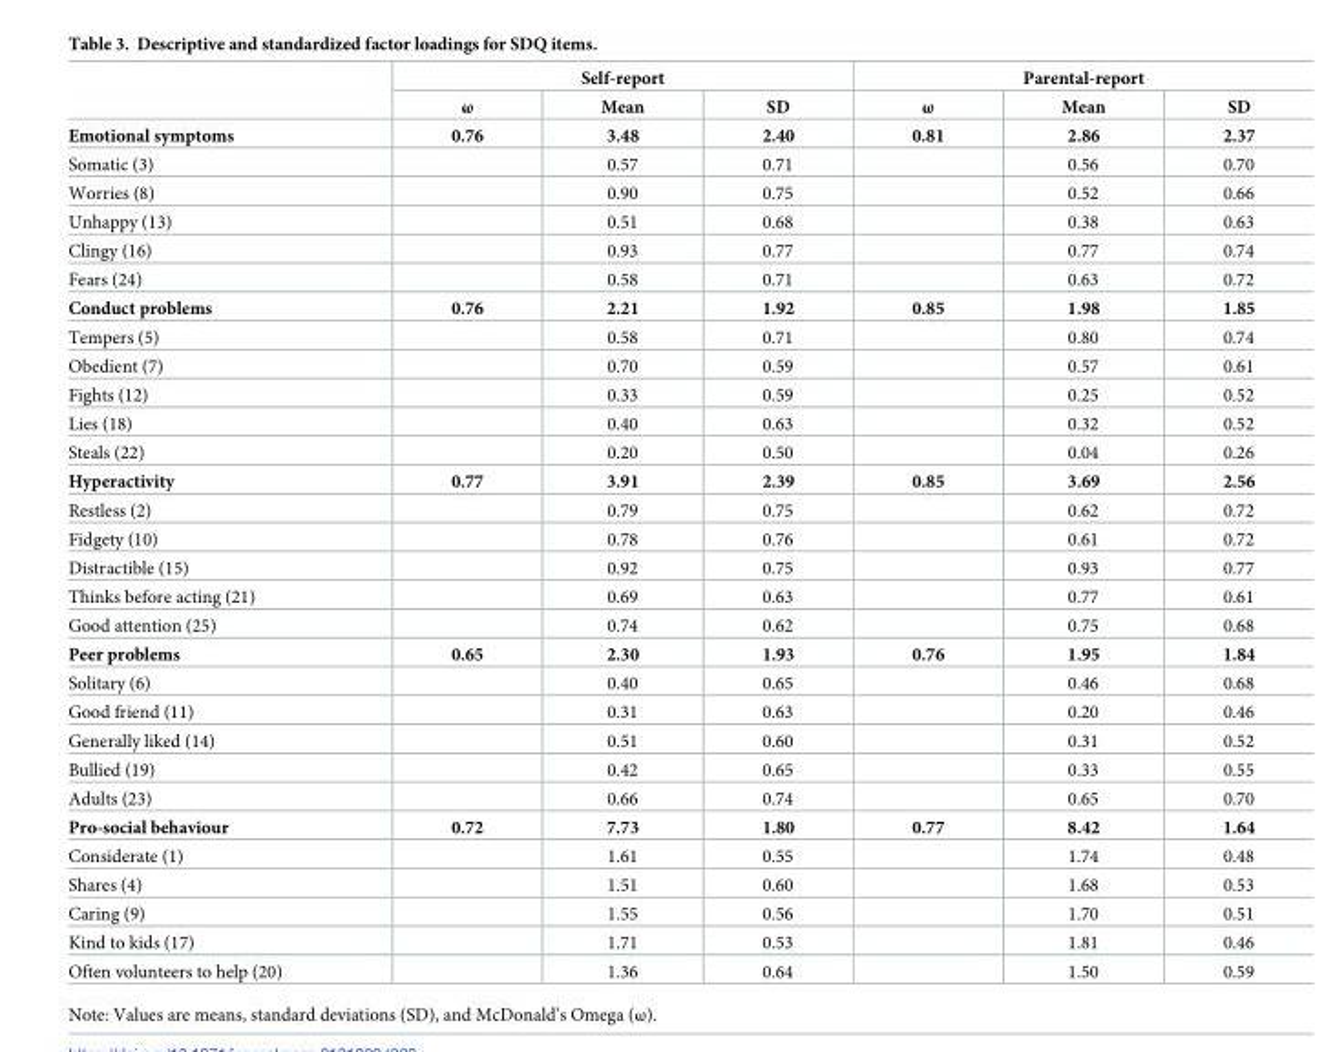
<table><thead><tr><td rowspan="2"></td><td colspan="3">Self-report</td><td colspan="3">Parental-report</td></tr><tr><td>ω</td><td>Mean</td><td>SD</td><td>ω</td><td>Mean</td><td>SD</td></tr></thead><tbody><tr><td>Emotional symptoms</td><td>0.76</td><td>3.48</td><td>2.40</td><td>0.81</td><td>2.86</td><td>2.37</td></tr><tr><td>Somatic (3)</td><td></td><td>0.57</td><td>0.71</td><td></td><td>0.56</td><td>0.70</td></tr><tr><td>Worries (8)</td><td></td><td>0.90</td><td>0.75</td><td></td><td>0.52</td><td>0.66</td></tr><tr><td>Unhappy (13)</td><td></td><td>0.51</td><td>0.68</td><td></td><td>0.38</td><td>0.63</td></tr><tr><td>Clingy (16)</td><td></td><td>0.93</td><td>0.77</td><td></td><td>0.77</td><td>0.74</td></tr><tr><td>Fears (24)</td><td></td><td>0.58</td><td>0.71</td><td></td><td>0.63</td><td>0.72</td></tr><tr><td>Conduct problems</td><td>0.76</td><td>2.21</td><td>1.92</td><td>0.85</td><td>1.98</td><td>1.85</td></tr><tr><td>Tempers (5)</td><td></td><td>0.58</td><td>0.71</td><td></td><td>0.80</td><td>0.74</td></tr><tr><td>Obedient (7)</td><td></td><td>0.70</td><td>0.59</td><td></td><td>0.57</td><td>0.61</td></tr><tr><td>Fights (12)</td><td></td><td>0.33</td><td>0.59</td><td></td><td>0.25</td><td>0.52</td></tr><tr><td>Lies (18)</td><td></td><td>0.40</td><td>0.63</td><td></td><td>0.32</td><td>0.52</td></tr><tr><td>Steals (22)</td><td></td><td>0.20</td><td>0.50</td><td></td><td>0.04</td><td>0.26</td></tr><tr><td>Hyperactivity</td><td>0.77</td><td>3.91</td><td>2.39</td><td>0.85</td><td>3.69</td><td>2.56</td></tr><tr><td>Restless (2)</td><td></td><td>0.79</td><td>0.75</td><td></td><td>0.62</td><td>0.72</td></tr><tr><td>Fidgety (10)</td><td></td><td>0.78</td><td>0.76</td><td></td><td>0.61</td><td>0.72</td></tr><tr><td>Distractible (15)</td><td></td><td>0.92</td><td>0.75</td><td></td><td>0.93</td><td>0.77</td></tr><tr><td>Thinks before acting (21)</td><td></td><td>0.69</td><td>0.63</td><td></td><td>0.77</td><td>0.61</td></tr><tr><td>Good attention (25)</td><td></td><td>0.74</td><td>0.62</td><td></td><td>0.75</td><td>0.68</td></tr><tr><td>Peer problems</td><td>0.65</td><td>2.30</td><td>1.93</td><td>0.76</td><td>1.95</td><td>1.84</td></tr><tr><td>Solitary (6)</td><td></td><td>0.40</td><td>0.65</td><td></td><td>0.46</td><td>0.68</td></tr><tr><td>Good friend (11)</td><td></td><td>0.31</td><td>0.63</td><td></td><td>0.20</td><td>0.46</td></tr><tr><td>Generally liked (14)</td><td></td><td>0.51</td><td>0.60</td><td></td><td>0.31</td><td>0.52</td></tr><tr><td>Bullied (19)</td><td></td><td>0.42</td><td>0.65</td><td></td><td>0.33</td><td>0.55</td></tr><tr><td>Adults (23)</td><td></td><td>0.66</td><td>0.74</td><td></td><td>0.65</td><td>0.70</td></tr><tr><td>Pro-social behaviour</td><td>0.72</td><td>7.73</td><td>1.80</td><td>0.77</td><td>8.42</td><td>1.64</td></tr><tr><td>Considerate (1)</td><td></td><td>1.61</td><td>0.55</td><td></td><td>1.74</td><td>0.48</td></tr><tr><td>Shares (4)</td><td></td><td>1.51</td><td>0.60</td><td></td><td>1.68</td><td>0.53</td></tr><tr><td>Caring (9)</td><td></td><td>1.55</td><td>0.56</td><td></td><td>1.70</td><td>0.51</td></tr><tr><td>Kind to kids (17)</td><td></td><td>1.71</td><td>0.53</td><td></td><td>1.81</td><td>0.46</td></tr><tr><td>Often volunteers to help (20)</td><td></td><td>1.36</td><td>0.64</td><td></td><td>1.50</td><td>0.59</td></tr></tbody></table>